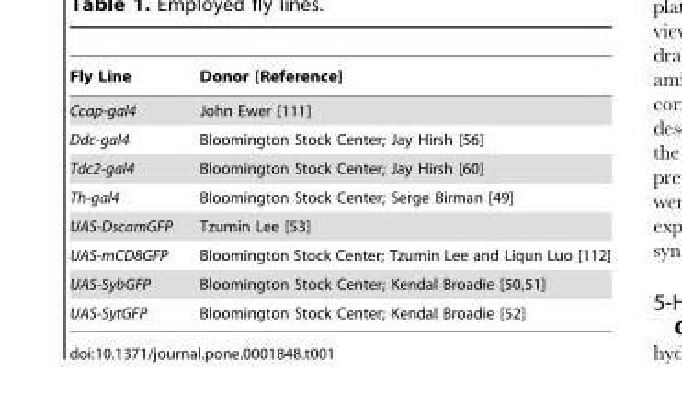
<table><thead><tr><td>Fly Line</td><td>Donor [Reference]</td></tr></thead><tbody><tr><td>Ccap-gal4</td><td>John Ewer [111]</td></tr><tr><td>Ddc-gal4</td><td>Bloomington Stock Center; Jay Hirsh [56]</td></tr><tr><td>Tdc2-gal4</td><td>Bloomington Stock Center; Jay Hirsh [60]</td></tr><tr><td>Th-gal4</td><td>Bloomington Stock Center; Serge Birman [49]</td></tr><tr><td>UAS-DscamGFP</td><td>Tzumin Lee [53]</td></tr><tr><td>UAS-mCD8GFP</td><td>Bloomington Stock Center; Tzumin Lee and Liqun Luo [112]</td></tr><tr><td>UAS-SybGFP</td><td>Bloomington Stock Center; Kendal Broadie [50,51]</td></tr><tr><td>UAS-SytGFP</td><td>Bloomington Stock Center; Kendal Broadie [52]</td></tr></tbody></table>